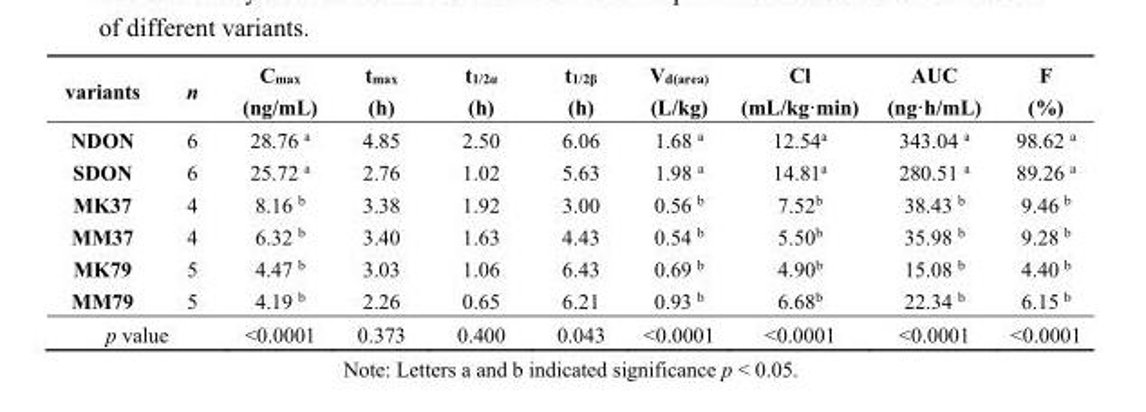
<table><thead><tr><td>variants</td><td>n</td><td>C<sub>max</sub> (ng/mL)</td><td>t<sub>max</sub> (h)</td><td>t<sub>1/2α</sub> (h)</td><td>t<sub>1/2β</sub> (h)</td><td>V<sub>d(area)</sub> (L/kg)</td><td>Cl (mL/kg·min)</td><td>AUC (ng·h/mL)</td><td>F (%)</td></tr></thead><tbody><tr><td>NDON</td><td>6</td><td>28.76 <sup>a</sup></td><td>4.85</td><td>2.50</td><td>6.06</td><td>1.68 <sup>a</sup></td><td>12.54<sup>a</sup></td><td>343.04 <sup>a</sup></td><td>98.62 <sup>a</sup></td></tr><tr><td>SDON</td><td>6</td><td>25.72 <sup>a</sup></td><td>2.76</td><td>1.02</td><td>5.63</td><td>1.98 <sup>a</sup></td><td>14.81<sup>a</sup></td><td>280.51 <sup>a</sup></td><td>89.26 <sup>a</sup></td></tr><tr><td>MK37</td><td>4</td><td>8.16 <sup>b</sup></td><td>3.38</td><td>1.92</td><td>3.00</td><td>0.56 <sup>b</sup></td><td>7.52<sup>b</sup></td><td>38.43 <sup>b</sup></td><td>9.46 <sup>b</sup></td></tr><tr><td>MM37</td><td>4</td><td>6.32 <sup>b</sup></td><td>3.40</td><td>1.63</td><td>4.43</td><td>0.54 <sup>b</sup></td><td>5.50<sup>b</sup></td><td>35.98 <sup>b</sup></td><td>9.28 <sup>b</sup></td></tr><tr><td>MK79</td><td>5</td><td>4.47 <sup>b</sup></td><td>3.03</td><td>1.06</td><td>6.43</td><td>0.69 <sup>b</sup></td><td>4.90<sup>b</sup></td><td>15.08 <sup>b</sup></td><td>4.40 <sup>b</sup></td></tr><tr><td>MM79</td><td>5</td><td>4.19 <sup>b</sup></td><td>2.26</td><td>0.65</td><td>6.21</td><td>0.93 <sup>b</sup></td><td>6.68<sup>b</sup></td><td>22.34 <sup>b</sup></td><td>6.15 <sup>b</sup></td></tr><tr><td colspan="2">p value</td><td>&lt;0.0001</td><td>0.373</td><td>0.400</td><td>0.043</td><td>&lt;0.0001</td><td>&lt;0.0001</td><td>&lt;0.0001</td><td>&lt;0.0001</td></tr></tbody></table>